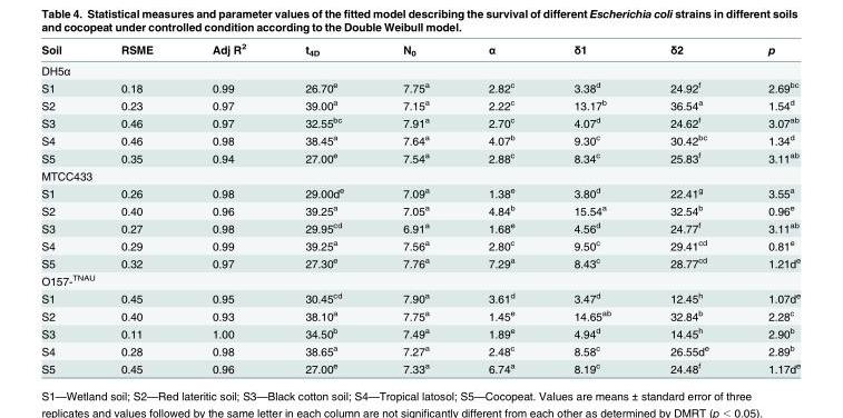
<table><thead><tr><td>Soil</td><td>RSME</td><td>Adj R<sup>2</sup></td><td>t<sub>4D</sub></td><td>N<sub>0</sub></td><td>α</td><td>δ1</td><td>δ2</td><td>p</td></tr></thead><tbody><tr><td colspan="9">DH5α</td></tr><tr><td>S1</td><td>0.18</td><td>0.99</td><td>26.70<sup>e</sup></td><td>7.75<sup>a</sup></td><td>2.82<sup>c</sup></td><td>3.38<sup>d</sup></td><td>24.92<sup>f</sup></td><td>2.69<sup>bc</sup></td></tr><tr><td>S2</td><td>0.23</td><td>0.97</td><td>39.00<sup>a</sup></td><td>7.15<sup>a</sup></td><td>2.22<sup>c</sup></td><td>13.17<sup>b</sup></td><td>36.54<sup>a</sup></td><td>1.54<sup>d</sup></td></tr><tr><td>S3</td><td>0.46</td><td>0.97</td><td>32.55<sup>bc</sup></td><td>7.91<sup>a</sup></td><td>2.70<sup>c</sup></td><td>4.07<sup>d</sup></td><td>24.62<sup>f</sup></td><td>3.07<sup>ab</sup></td></tr><tr><td>S4</td><td>0.46</td><td>0.98</td><td>38.45<sup>a</sup></td><td>7.64<sup>a</sup></td><td>4.07<sup>b</sup></td><td>9.30<sup>c</sup></td><td>30.42<sup>bc</sup></td><td>1.34<sup>d</sup></td></tr><tr><td>S5</td><td>0.35</td><td>0.94</td><td>27.00<sup>e</sup></td><td>7.54<sup>a</sup></td><td>2.88<sup>c</sup></td><td>8.34<sup>c</sup></td><td>25.83<sup>f</sup></td><td>3.11<sup>ab</sup></td></tr><tr><td colspan="9">MTCC433</td></tr><tr><td>S1</td><td>0.26</td><td>0.98</td><td>29.00d<sup>e</sup></td><td>7.09<sup>a</sup></td><td>1.38<sup>e</sup></td><td>3.80<sup>d</sup></td><td>22.41<sup>g</sup></td><td>3.55<sup>a</sup></td></tr><tr><td>S2</td><td>0.40</td><td>0.96</td><td>39.25<sup>a</sup></td><td>7.05<sup>a</sup></td><td>4.84<sup>b</sup></td><td>15.54<sup>a</sup></td><td>32.54<sup>b</sup></td><td>0.96<sup>e</sup></td></tr><tr><td>S3</td><td>0.27</td><td>0.98</td><td>29.95<sup>cd</sup></td><td>6.91<sup>a</sup></td><td>1.68<sup>e</sup></td><td>4.56<sup>d</sup></td><td>24.77<sup>f</sup></td><td>3.11<sup>ab</sup></td></tr><tr><td>S4</td><td>0.29</td><td>0.99</td><td>39.25<sup>a</sup></td><td>7.56<sup>a</sup></td><td>2.80<sup>c</sup></td><td>9.50<sup>c</sup></td><td>29.41<sup>cd</sup></td><td>0.81<sup>e</sup></td></tr><tr><td>S5</td><td>0.32</td><td>0.97</td><td>27.30<sup>e</sup></td><td>7.76<sup>a</sup></td><td>7.29<sup>a</sup></td><td>8.43<sup>c</sup></td><td>28.77<sup>cd</sup></td><td>1.21d<sup>e</sup></td></tr><tr><td colspan="9">O157-<sup>TNAU</sup></td></tr><tr><td>S1</td><td>0.45</td><td>0.95</td><td>30.45<sup>cd</sup></td><td>7.90<sup>a</sup></td><td>3.61<sup>d</sup></td><td>3.47<sup>d</sup></td><td>12.45<sup>h</sup></td><td>1.07d<sup>e</sup></td></tr><tr><td>S2</td><td>0.40</td><td>0.93</td><td>38.10<sup>a</sup></td><td>7.75<sup>a</sup></td><td>1.45<sup>e</sup></td><td>14.65<sup>ab</sup></td><td>32.84<sup>b</sup></td><td>2.28<sup>c</sup></td></tr><tr><td>S3</td><td>0.11</td><td>1.00</td><td>34.50<sup>b</sup></td><td>7.49<sup>a</sup></td><td>1.89<sup>e</sup></td><td>4.94<sup>d</sup></td><td>14.45<sup>h</sup></td><td>2.90<sup>b</sup></td></tr><tr><td>S4</td><td>0.28</td><td>0.98</td><td>38.65<sup>a</sup></td><td>7.27<sup>a</sup></td><td>2.48<sup>c</sup></td><td>8.58<sup>c</sup></td><td>26.55d<sup>e</sup></td><td>2.89<sup>b</sup></td></tr><tr><td>S5</td><td>0.45</td><td>0.96</td><td>27.00<sup>e</sup></td><td>7.33<sup>a</sup></td><td>6.74<sup>a</sup></td><td>8.19<sup>c</sup></td><td>24.48<sup>f</sup></td><td>1.17d<sup>e</sup></td></tr></tbody></table>